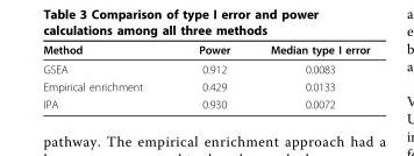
<table><thead><tr><td>Method</td><td>Power</td><td>Median type I error</td></tr></thead><tbody><tr><td>GSEA</td><td>0.912</td><td>0.0083</td></tr><tr><td>Empirical enrichment</td><td>0.429</td><td>0.0133</td></tr><tr><td>IPA</td><td>0.930</td><td>0.0072</td></tr></tbody></table>